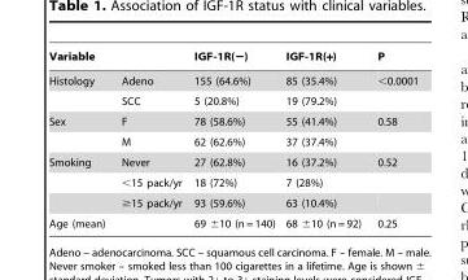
<table><thead><tr><td>Variable</td><td></td><td>IGF-1R(−)</td><td>IGF-1R(+)</td><td>P</td></tr></thead><tbody><tr><td rowspan="2">Histology</td><td>Adeno</td><td>155 (64.6%)</td><td>85 (35.4%)</td><td>&lt;0.0001</td></tr><tr><td>SCC</td><td>5 (20.8%)</td><td>19 (79.2%)</td><td></td></tr><tr><td rowspan="2">Sex</td><td>F</td><td>78 (58.6%)</td><td>55 (41.4%)</td><td>0.58</td></tr><tr><td>M</td><td>62 (62.6%)</td><td>37 (37.4%)</td><td></td></tr><tr><td rowspan="3">Smoking</td><td>Never</td><td>27 (62.8%)</td><td>16 (37.2%)</td><td>0.52</td></tr><tr><td>&lt;15 pack/yr</td><td>18 (72%)</td><td>7 (28%)</td><td></td></tr><tr><td>≥15 pack/yr</td><td>93 (59.6%)</td><td>63 (10.4%)</td><td></td></tr><tr><td>Age (mean)</td><td></td><td>69 ±10 (n = 140)</td><td>68 ±10 (n = 92)</td><td>0.25</td></tr></tbody></table>